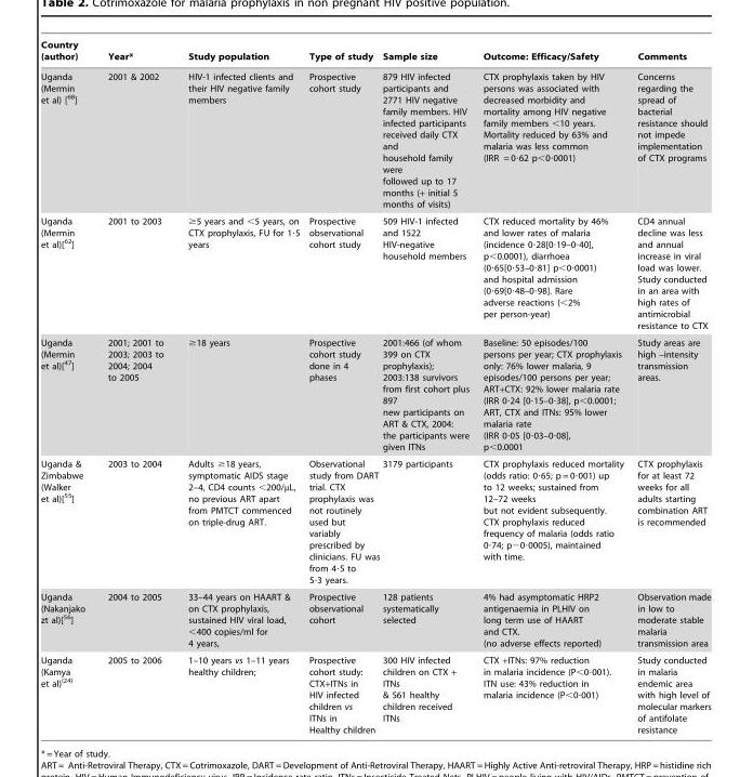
<table><thead><tr><td>Country (author)</td><td>Year*</td><td>Study population</td><td>Type of study</td><td>Sample size</td><td>Outcome: Efficacy/Safety</td><td>Comments</td></tr></thead><tbody><tr><td>Uganda (Mermin et al) [<sup>68</sup>]</td><td>2001 &amp; 2002</td><td>HIV-1 infected clients and their HIV negative family members</td><td>Prospective cohort study</td><td>879 HIV infected participants and 2771 HIV negative family members. HIV infected participants received daily CTX and household family were followed up to 17 months (+ initial 5 months of visits)</td><td>CTX prophylaxis taken by HIV persons was associated with decreased morbidity and mortality among HIV negative family members &lt;10 years. Mortality reduced by 63% and malaria was less common (IRR = 0·62 p&lt;0·0001)</td><td>Concerns regarding the spread of bacterial resistance should not impede implementation of CTX programs</td></tr><tr><td>Uganda (Mermin et al)[<sup>62</sup>]</td><td>2001 to 2003</td><td>≥5 years and &lt;5 years, on CTX prophylaxis, FU for 1·5 years</td><td>Prospective observational cohort study</td><td>509 HIV-1 infected and 1522 HIV-negative household members</td><td>CTX reduced mortality by 46% and lower rates of malaria (incidence 0·28[0·19–0·40], p&lt;0.0001), diarrhoea (0·65[0·53–0·81] p&lt;0·0001) and hospital admission (0·69[0·48–0·98]. Rare adverse reactions (&lt;2% per person-year)</td><td>CD4 annual decline was less and annual increase in viral load was lower. Study conducted in an area with high rates of antimicrobial resistance to CTX</td></tr><tr><td>Uganda (Mermin et al)[<sup>47</sup>]</td><td>2001; 2001 to 2003; 2003 to 2004; 2004 to 2005</td><td>≥18 years</td><td>Prospective cohort study done in 4 phases</td><td>2001:466 (of whom 399 on CTX prophylaxis); 2003:138 survivors from first cohort plus 897 new participants on ART &amp; CTX, 2004: the participants were given ITNs</td><td>Baseline: 50 episodes/100 persons per year; CTX prophylaxis only: 76% lower malaria, 9 episodes/100 persons per year; ART+CTX: 92% lower malaria rate (IRR 0·24 [0·15–0·38], p&lt;0.0001; ART, CTX and ITNs: 95% lower malaria rate (IRR 0·05 [0·03–0·08], p&lt;0.0001</td><td>Study areas are high –intensity transmission areas.</td></tr><tr><td>Uganda &amp; Zimbabwe (Walker et al)[<sup>55</sup>]</td><td>2003 to 2004</td><td>Adults ≥18 years, symptomatic AIDS stage 2–4, CD4 counts &lt;200/µL, no previous ART apart from PMTCT commenced on triple-drug ART.</td><td>Observational study from DART trial. CTX prophylaxis was not routinely used but variably prescribed by clinicians. FU was from 4·5 to 5·3 years.</td><td>3179 participants</td><td>CTX prophylaxis reduced mortality (odds ratio: 0·65; p = 0·001) up to 12 weeks; sustained from 12–72 weeks but not evident subsequently. CTX prophylaxis reduced frequency of malaria (odds ratio 0·74; p−0·0005), maintained with time.</td><td>CTX prophylaxis for at least 72 weeks for all adults starting combination ART is recommended</td></tr><tr><td>Uganda (Nakanjako zt al)[<sup>56</sup>]</td><td>2004 to 2005</td><td>33–44 years on HAART &amp; on CTX prophylaxis, sustained HIV viral load, &lt;400 copies/ml for 4 years,</td><td>Prospective observational cohort</td><td>128 patients systematically selected</td><td>4% had asymptomatic HRP2 antigenaemia in PLHIV on long term use of HAART and CTX. (no adverse effects reported)</td><td>Observation made in low to moderate stable malaria transmission area</td></tr><tr><td>Uganda (Kamya et al)<sup>(24)</sup></td><td>2005 to 2006</td><td>1–10 years vs 1–11 years healthy children;</td><td>Prospective cohort study: CTX+ITNs in HIV infected children vs ITNs in Healthy children</td><td>300 HIV infected children on CTX + ITNs &amp; 561 healthy children received ITNs</td><td>CTX +ITNs: 97% reduction in malaria incidence (P&lt;0·001). ITN use: 43% reduction in malaria incidence (P&lt;0·001)</td><td>Study conducted in malaria endemic area with high level of molecular markers of antifolate resistance</td></tr></tbody></table>